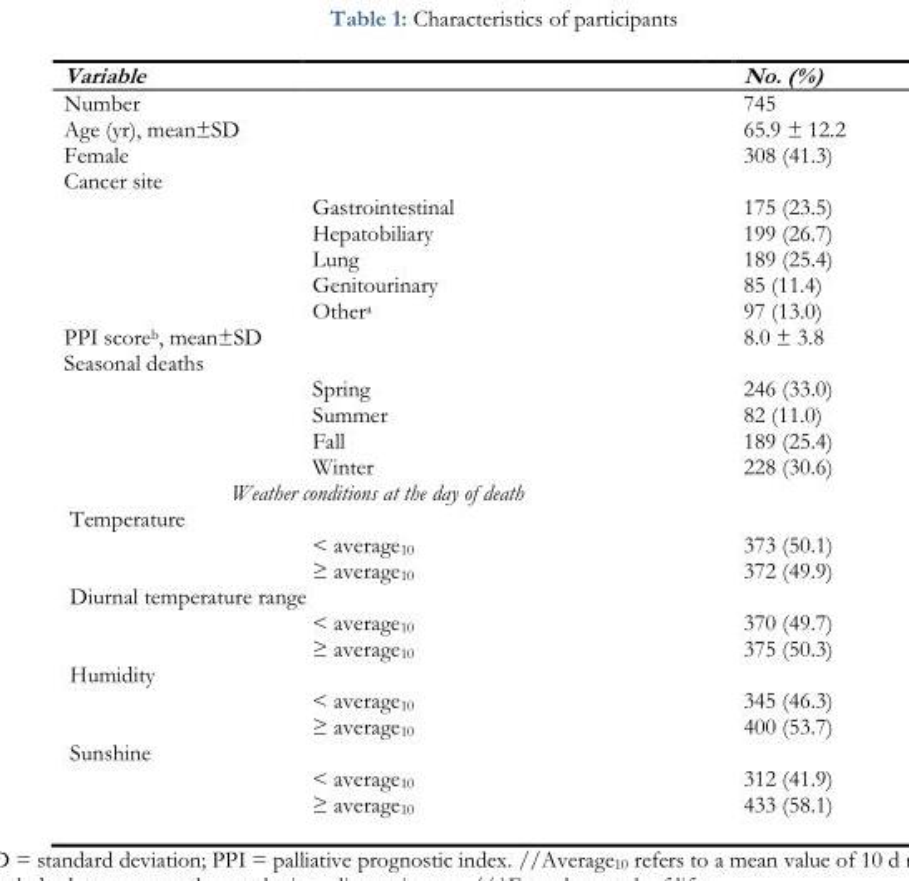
<table><thead><tr><td>Variable</td><td></td><td>No. (%)</td></tr></thead><tbody><tr><td>Number</td><td></td><td>745</td></tr><tr><td>Age (yr), mean±SD</td><td></td><td>65.9 ± 12.2</td></tr><tr><td>Female</td><td></td><td>308 (41.3)</td></tr><tr><td colspan="3">Cancer site</td></tr><tr><td rowspan="5"></td><td>Gastrointestinal</td><td>175 (23.5)</td></tr><tr><td>Hepatobiliary</td><td>199 (26.7)</td></tr><tr><td>Lung</td><td>189 (25.4)</td></tr><tr><td>Genitourinary</td><td>85 (11.4)</td></tr><tr><td>Other<sup>a</sup></td><td>97 (13.0)</td></tr><tr><td>PPI score<sup>b</sup>, mean±SD</td><td></td><td>8.0 ± 3.8</td></tr><tr><td colspan="3">Seasonal deaths</td></tr><tr><td rowspan="4"></td><td>Spring</td><td>246 (33.0)</td></tr><tr><td>Summer</td><td>82 (11.0)</td></tr><tr><td>Fall</td><td>189 (25.4)</td></tr><tr><td>Winter</td><td>228 (30.6)</td></tr><tr><td colspan="3">Weather conditions at the day of death</td></tr><tr><td colspan="3">Temperature</td></tr><tr><td rowspan="2"></td><td>&lt; average<sub>10</sub></td><td>373 (50.1)</td></tr><tr><td>≥ average<sub>10</sub></td><td>372 (49.9)</td></tr><tr><td colspan="3">Diurnal temperature range</td></tr><tr><td rowspan="2"></td><td>&lt; average<sub>10</sub></td><td>370 (49.7)</td></tr><tr><td>≥ average<sub>10</sub></td><td>375 (50.3)</td></tr><tr><td colspan="3">Humidity</td></tr><tr><td rowspan="2"></td><td>&lt; average<sub>10</sub></td><td>345 (46.3)</td></tr><tr><td>≥ average<sub>10</sub></td><td>400 (53.7)</td></tr><tr><td colspan="3">Sunshine</td></tr><tr><td rowspan="2"></td><td>&lt; average<sub>10</sub></td><td>312 (41.9)</td></tr><tr><td>≥ average<sub>10</sub></td><td>433 (58.1)</td></tr></tbody></table>